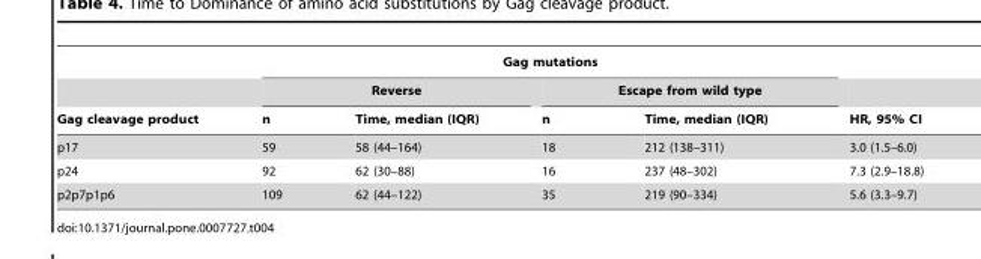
<table><thead><tr><td rowspan="3">Gag cleavage product</td><td colspan="4">Gag mutations</td><td rowspan="3">HR, 95% CI</td></tr><tr><td colspan="2">Reverse</td><td colspan="2">Escape from wild type</td></tr><tr><td>n</td><td>Time, median (IQR)</td><td>n</td><td>Time, median (IQR)</td></tr></thead><tbody><tr><td>p17</td><td>59</td><td>58 (44–164)</td><td>18</td><td>212 (138–311)</td><td>3.0 (1.5–6.0)</td></tr><tr><td>p24</td><td>92</td><td>62 (30–88)</td><td>16</td><td>237 (48–302)</td><td>7.3 (2.9–18.8)</td></tr><tr><td>p2p7p1p6</td><td>109</td><td>62 (44–122)</td><td>35</td><td>219 (90–334)</td><td>5.6 (3.3–9.7)</td></tr></tbody></table>